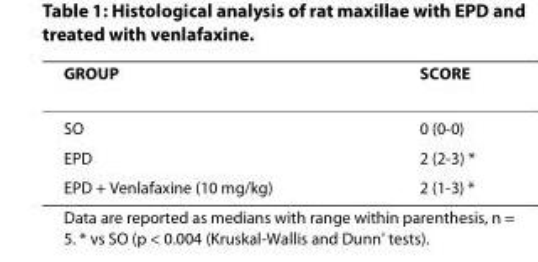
<table><thead><tr><td>GROUP</td><td>SCORE</td></tr></thead><tbody><tr><td>SO</td><td>0 (0-0)</td></tr><tr><td>EPD</td><td>2 (2-3) *</td></tr><tr><td>EPD + Venlafaxine (10 mg/kg)</td><td>2 (1-3) *</td></tr></tbody></table>